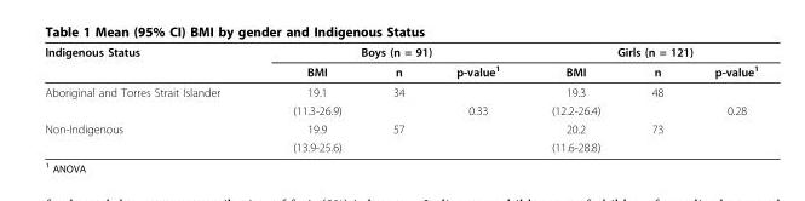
<table><thead><tr><td rowspan="2">Indigenous Status</td><td colspan="3">Boys (n = 91)</td><td colspan="3">Girls (n = 121)</td></tr><tr><td>BMI</td><td>n</td><td>p-value<sup>1</sup></td><td>BMI</td><td>n</td><td>p-value<sup>1</sup></td></tr></thead><tbody><tr><td rowspan="2">Aboriginal and Torres Strait Islander</td><td>19.1</td><td>34</td><td></td><td>19.3</td><td>48</td><td></td></tr><tr><td>(11.3-26.9)</td><td></td><td>0.33</td><td>(12.2-26.4)</td><td></td><td>0.28</td></tr><tr><td rowspan="2">Non-Indigenous</td><td>19.9</td><td>57</td><td></td><td>20.2</td><td>73</td><td></td></tr><tr><td>(13.9-25.6)</td><td></td><td></td><td>(11.6-28.8)</td><td></td><td></td></tr></tbody></table>